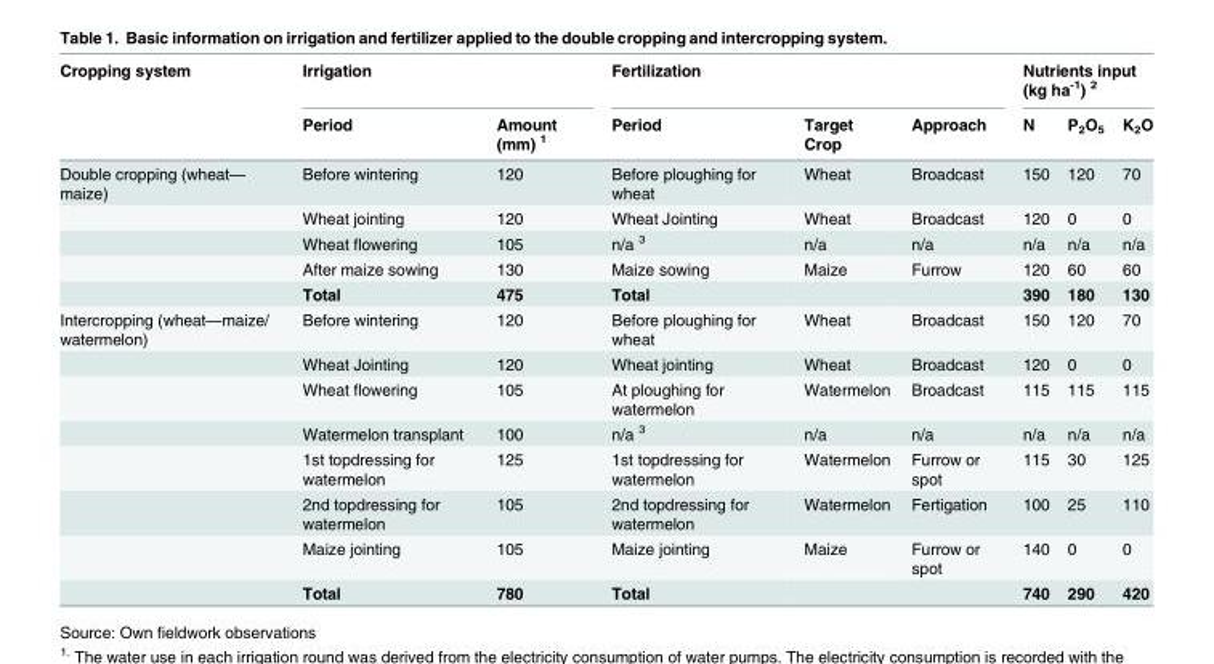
<table><thead><tr><td rowspan="2">Cropping system</td><td colspan="2">Irrigation</td><td colspan="3">Fertilization</td><td colspan="3">Nutrients input (kg ha<sup>-1</sup>) <sup>2</sup></td></tr><tr><td>Period</td><td>Amount (mm) <sup>1</sup></td><td>Period</td><td>Target Crop</td><td>Approach</td><td>N</td><td>P<sub>2</sub>O<sub>5</sub></td><td>K<sub>2</sub>O</td></tr></thead><tbody><tr><td rowspan="5">Double cropping (wheat— maize)</td><td>Before wintering</td><td>120</td><td>Before ploughing for wheat</td><td>Wheat</td><td>Broadcast</td><td>150</td><td>120</td><td>70</td></tr><tr><td>Wheat jointing</td><td>120</td><td>Wheat Jointing</td><td>Wheat</td><td>Broadcast</td><td>120</td><td>0</td><td>0</td></tr><tr><td>Wheat flowering</td><td>105</td><td>n/a <sup>3</sup></td><td>n/a</td><td>n/a</td><td>n/a</td><td>n/a</td><td>n/a</td></tr><tr><td>After maize sowing</td><td>130</td><td>Maize sowing</td><td>Maize</td><td>Furrow</td><td>120</td><td>60</td><td>60</td></tr><tr><td>Total</td><td>475</td><td>Total</td><td></td><td></td><td>390</td><td>180</td><td>130</td></tr><tr><td rowspan="8">Intercropping (wheat—maize/ watermelon)</td><td>Before wintering</td><td>120</td><td>Before ploughing for wheat</td><td>Wheat</td><td>Broadcast</td><td>150</td><td>120</td><td>70</td></tr><tr><td>Wheat Jointing</td><td>120</td><td>Wheat jointing</td><td>Wheat</td><td>Broadcast</td><td>120</td><td>0</td><td>0</td></tr><tr><td>Wheat flowering</td><td>105</td><td>At ploughing for watermelon</td><td>Watermelon</td><td>Broadcast</td><td>115</td><td>115</td><td>115</td></tr><tr><td>Watermelon transplant</td><td>100</td><td>n/a <sup>3</sup></td><td>n/a</td><td>n/a</td><td>n/a</td><td>n/a</td><td>n/a</td></tr><tr><td>1st topdressing for watermelon</td><td>125</td><td>1st topdressing for watermelon</td><td>Watermelon</td><td>Furrow or spot</td><td>115</td><td>30</td><td>125</td></tr><tr><td>2nd topdressing for watermelon</td><td>105</td><td>2nd topdressing for watermelon</td><td>Watermelon</td><td>Fertigation</td><td>100</td><td>25</td><td>110</td></tr><tr><td>Maize jointing</td><td>105</td><td>Maize jointing</td><td>Maize</td><td>Furrow or spot</td><td>140</td><td>0</td><td>0</td></tr><tr><td>Total</td><td>780</td><td>Total</td><td></td><td></td><td>740</td><td>290</td><td>420</td></tr></tbody></table>